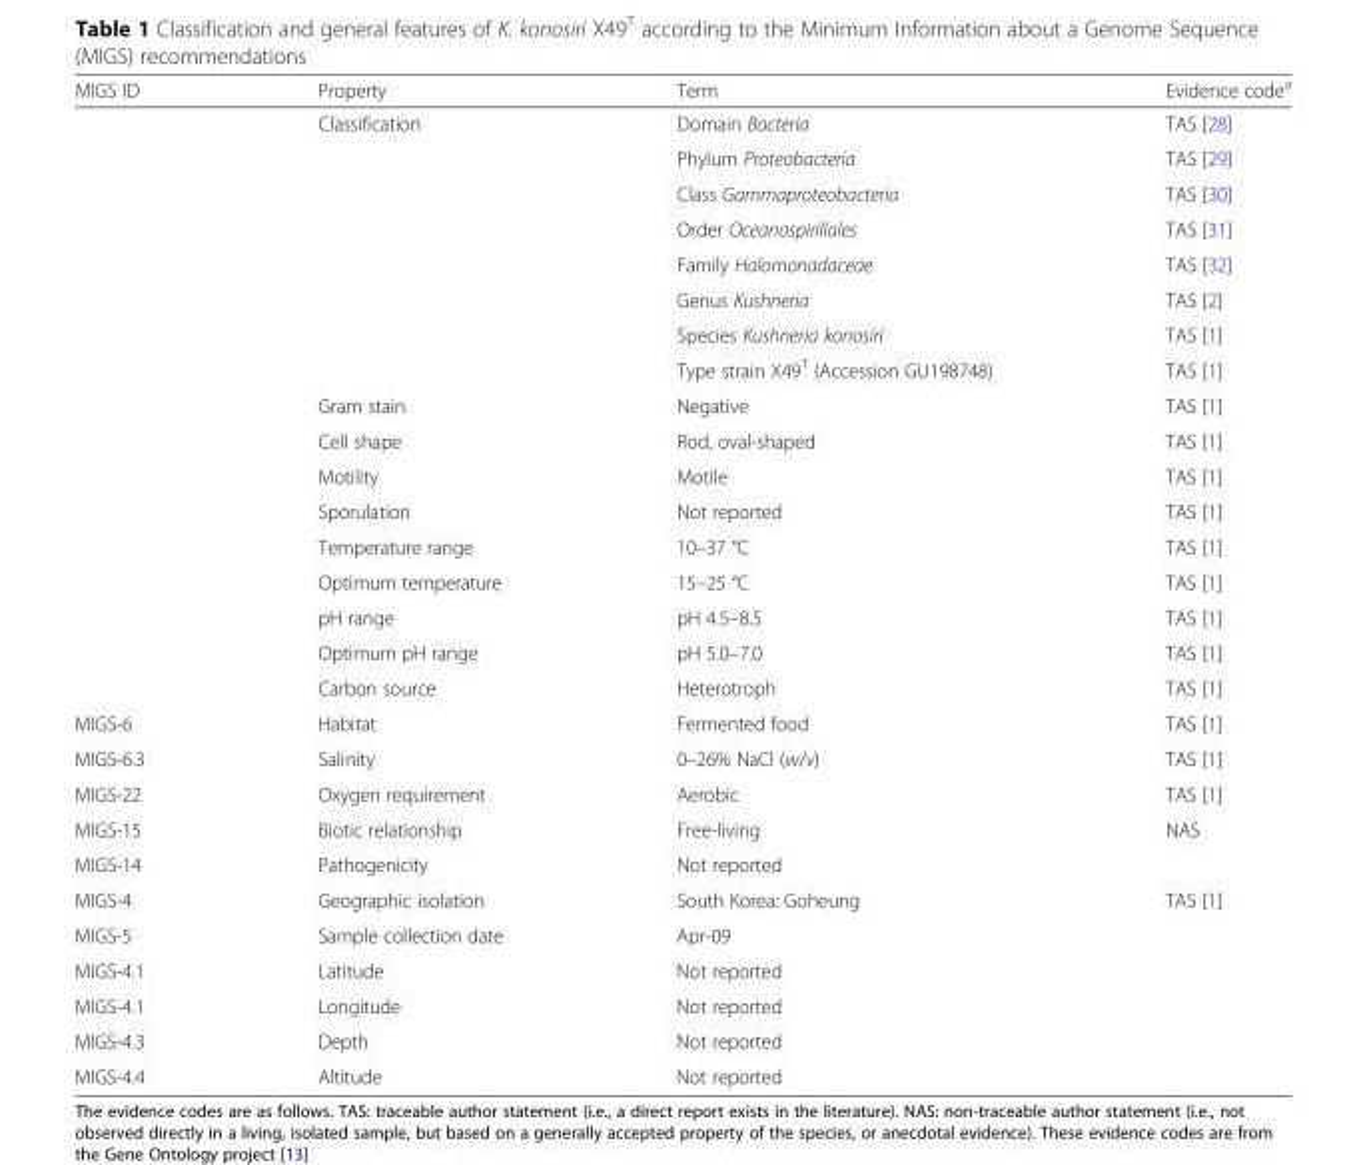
<table><thead><tr><td>MIGS ID</td><td>Property</td><td>Term</td><td>Evidence code<sup>a</sup></td></tr></thead><tbody><tr><td rowspan="17"></td><td rowspan="8">Classification</td><td>Domain Bacteria</td><td>TAS [28]</td></tr><tr><td>Phylum Proteobacteria</td><td>TAS [29]</td></tr><tr><td>Class Gammaproteobacteria</td><td>TAS [30]</td></tr><tr><td>Order Oceanospirillales</td><td>TAS [31]</td></tr><tr><td>Family Halomonadaceae</td><td>TAS [32]</td></tr><tr><td>Genus Kushneria</td><td>TAS [2]</td></tr><tr><td>Species Kushneria konosiri</td><td>TAS [1]</td></tr><tr><td>Type strain X49<sup>T</sup> (Accession GU198748)</td><td>TAS [1]</td></tr><tr><td>Gram stain</td><td>Negative</td><td>TAS [1]</td></tr><tr><td>Cell shape</td><td>Rod, oval-shaped</td><td>TAS [1]</td></tr><tr><td>Motility</td><td>Motile</td><td>TAS [1]</td></tr><tr><td>Sporulation</td><td>Not reported</td><td>TAS [1]</td></tr><tr><td>Temperature range</td><td>10–37 °C</td><td>TAS [1]</td></tr><tr><td>Optimum temperature</td><td>15–25 °C</td><td>TAS [1]</td></tr><tr><td>pH range</td><td>pH 4.5–8.5</td><td>TAS [1]</td></tr><tr><td>Optimum pH range</td><td>pH 5.0–7.0</td><td>TAS [1]</td></tr><tr><td>Carbon source</td><td>Heterotroph</td><td>TAS [1]</td></tr><tr><td>MIGS-6</td><td>Habitat</td><td>Fermented food</td><td>TAS [1]</td></tr><tr><td>MIGS-6.3</td><td>Salinity</td><td>0–26% NaCl (w/v)</td><td>TAS [1]</td></tr><tr><td>MIGS-22</td><td>Oxygen requirement</td><td>Aerobic</td><td>TAS [1]</td></tr><tr><td>MIGS-15</td><td>Biotic relationship</td><td>Free-living</td><td>NAS</td></tr><tr><td>MIGS-14</td><td>Pathogenicity</td><td>Not reported</td><td></td></tr><tr><td>MIGS-4</td><td>Geographic isolation</td><td>South Korea: Goheung</td><td>TAS [1]</td></tr><tr><td>MIGS-5</td><td>Sample collection date</td><td>Apr-09</td><td></td></tr><tr><td>MIGS-4.1</td><td>Latitude</td><td>Not reported</td><td></td></tr><tr><td>MIGS-4.1</td><td>Longitude</td><td>Not reported</td><td></td></tr><tr><td>MIGS-4.3</td><td>Depth</td><td>Not reported</td><td></td></tr><tr><td>MIGS-4.4</td><td>Altitude</td><td>Not reported</td><td></td></tr></tbody></table>